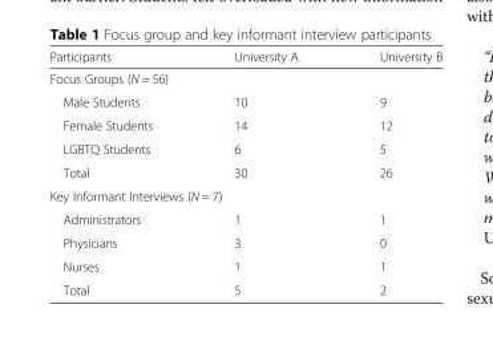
<table><thead><tr><td>Participants</td><td>University A</td><td>University B</td></tr></thead><tbody><tr><td colspan="3">Focus Groups (N = 56)</td></tr><tr><td>Male Students</td><td>10</td><td>9</td></tr><tr><td>Female Students</td><td>14</td><td>12</td></tr><tr><td>LGBTQ Students</td><td>6</td><td>5</td></tr><tr><td>Total</td><td>30</td><td>26</td></tr><tr><td colspan="3">Key Informant Interviews (N = 7)</td></tr><tr><td>Administrators</td><td>1</td><td>1</td></tr><tr><td>Physicians</td><td>3</td><td>0</td></tr><tr><td>Nurses</td><td>1</td><td>1</td></tr><tr><td>Total</td><td>5</td><td>2</td></tr></tbody></table>